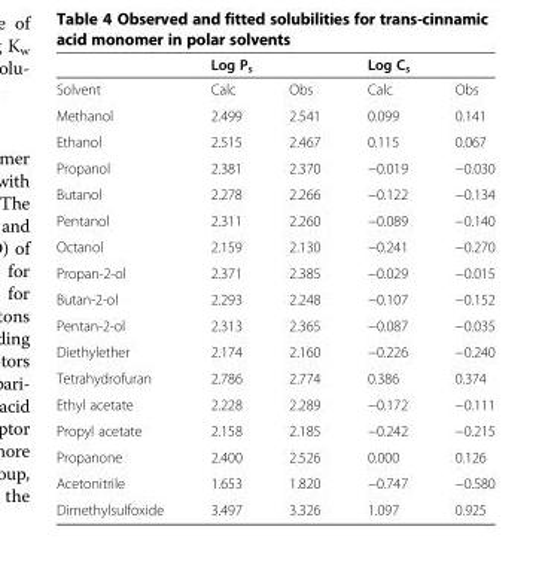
<table><thead><tr><td rowspan="2">Solvent</td><td colspan="2">Log P<sub>s</sub></td><td colspan="2">Log C<sub>s</sub></td></tr><tr><td>Calc</td><td>Obs</td><td>Calc</td><td>Obs</td></tr></thead><tbody><tr><td>Methanol</td><td>2.499</td><td>2.541</td><td>0.099</td><td>0.141</td></tr><tr><td>Ethanol</td><td>2.515</td><td>2.467</td><td>0.115</td><td>0.067</td></tr><tr><td>Propanol</td><td>2.381</td><td>2.370</td><td>−0.019</td><td>−0.030</td></tr><tr><td>Butanol</td><td>2.278</td><td>2.266</td><td>−0.122</td><td>−0.134</td></tr><tr><td>Pentanol</td><td>2.311</td><td>2.260</td><td>−0.089</td><td>−0.140</td></tr><tr><td>Octanol</td><td>2.159</td><td>2.130</td><td>−0.241</td><td>−0.270</td></tr><tr><td>Propan-2-ol</td><td>2.371</td><td>2.385</td><td>−0.029</td><td>−0.015</td></tr><tr><td>Butan-2-ol</td><td>2.293</td><td>2.248</td><td>−0.107</td><td>−0.152</td></tr><tr><td>Pentan-2-ol</td><td>2.313</td><td>2.365</td><td>−0.087</td><td>−0.035</td></tr><tr><td>Diethylether</td><td>2.174</td><td>2.160</td><td>−0.226</td><td>−0.240</td></tr><tr><td>Tetrahydrofuran</td><td>2.786</td><td>2.774</td><td>0.386</td><td>0.374</td></tr><tr><td>Ethyl acetate</td><td>2.228</td><td>2.289</td><td>−0.172</td><td>−0.111</td></tr><tr><td>Propyl acetate</td><td>2.158</td><td>2.185</td><td>−0.242</td><td>−0.215</td></tr><tr><td>Propanone</td><td>2.400</td><td>2.526</td><td>0.000</td><td>0.126</td></tr><tr><td>Acetonitrile</td><td>1.653</td><td>1.820</td><td>−0.747</td><td>−0.580</td></tr><tr><td>Dimethylsulfoxide</td><td>3.497</td><td>3.326</td><td>1.097</td><td>0.925</td></tr></tbody></table>